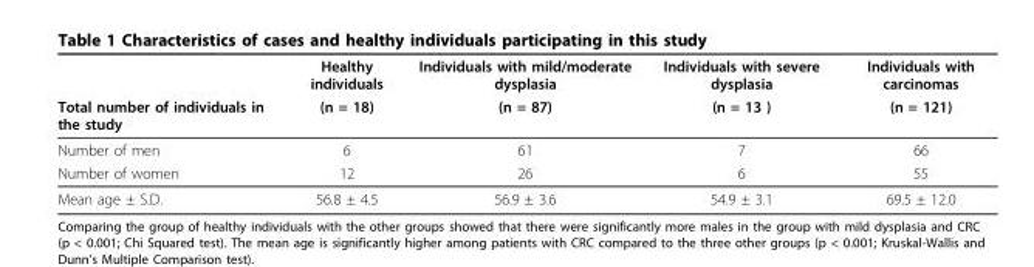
<table><thead><tr><td rowspan="2">Total number of individuals in the study</td><td rowspan="2">Healthy individuals (n = 18)</td><td rowspan="2">Individuals with mild/moderate dysplasia (n = 87)</td><td rowspan="2">Individuals with severe dysplasia (n = 13 )</td><td rowspan="2">Individuals with carcinomas (n = 121)</td></tr><tr></tr></thead><tbody><tr><td>Number of men</td><td>6</td><td>61</td><td>7</td><td>66</td></tr><tr><td>Number of women</td><td>12</td><td>26</td><td>6</td><td>55</td></tr><tr><td>Mean age ± S.D.</td><td>56.8 ± 4.5</td><td>56.9 ± 3.6</td><td>54.9 ± 3.1</td><td>69.5 ± 12.0</td></tr></tbody></table>